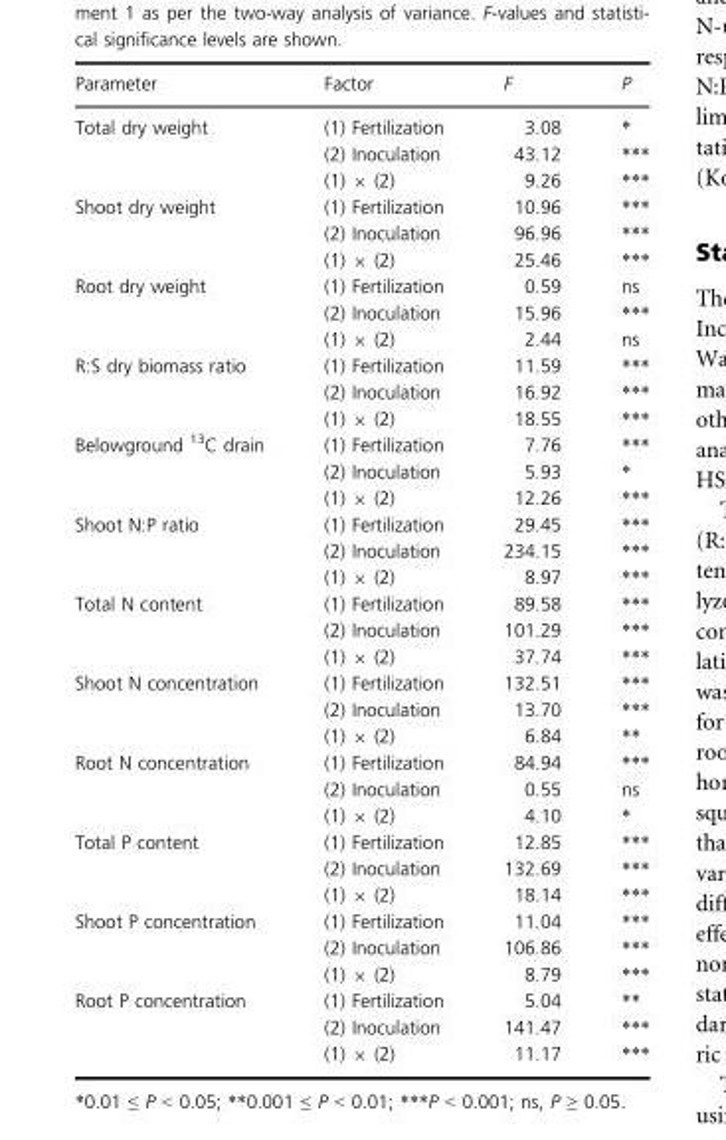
<table><thead><tr><td>Parameter</td><td>Factor</td><td>F</td><td>P</td></tr></thead><tbody><tr><td rowspan="3">Total dry weight</td><td>(1) Fertilization</td><td>3.08</td><td>*</td></tr><tr><td>(2) Inoculation</td><td>43.12</td><td>***</td></tr><tr><td>(1) × (2)</td><td>9.26</td><td>***</td></tr><tr><td rowspan="3">Shoot dry weight</td><td>(1) Fertilization</td><td>10.96</td><td>***</td></tr><tr><td>(2) Inoculation</td><td>96.96</td><td>***</td></tr><tr><td>(1) × (2)</td><td>25.46</td><td>***</td></tr><tr><td rowspan="3">Root dry weight</td><td>(1) Fertilization</td><td>0.59</td><td>ns</td></tr><tr><td>(2) Inoculation</td><td>15.96</td><td>***</td></tr><tr><td>(1) × (2)</td><td>2.44</td><td>ns</td></tr><tr><td rowspan="3">R:S dry biomass ratio</td><td>(1) Fertilization</td><td>11.59</td><td>***</td></tr><tr><td>(2) Inoculation</td><td>16.92</td><td>***</td></tr><tr><td>(1) × (2)</td><td>18.55</td><td>***</td></tr><tr><td rowspan="3">Belowground <sup>13</sup>C drain</td><td>(1) Fertilization</td><td>7.76</td><td>***</td></tr><tr><td>(2) Inoculation</td><td>5.93</td><td>*</td></tr><tr><td>(1) × (2)</td><td>12.26</td><td>***</td></tr><tr><td rowspan="3">Shoot N:P ratio</td><td>(1) Fertilization</td><td>29.45</td><td>***</td></tr><tr><td>(2) Inoculation</td><td>234.15</td><td>***</td></tr><tr><td>(1) × (2)</td><td>8.97</td><td>***</td></tr><tr><td rowspan="3">Total N content</td><td>(1) Fertilization</td><td>89.58</td><td>***</td></tr><tr><td>(2) Inoculation</td><td>101.29</td><td>***</td></tr><tr><td>(1) × (2)</td><td>37.74</td><td>***</td></tr><tr><td rowspan="3">Shoot N concentration</td><td>(1) Fertilization</td><td>132.51</td><td>***</td></tr><tr><td>(2) Inoculation</td><td>13.70</td><td>***</td></tr><tr><td>(1) × (2)</td><td>6.84</td><td>**</td></tr><tr><td rowspan="3">Root N concentration</td><td>(1) Fertilization</td><td>84.94</td><td>***</td></tr><tr><td>(2) Inoculation</td><td>0.55</td><td>ns</td></tr><tr><td>(1) × (2)</td><td>4.10</td><td>*</td></tr><tr><td rowspan="3">Total P content</td><td>(1) Fertilization</td><td>12.85</td><td>***</td></tr><tr><td>(2) Inoculation</td><td>132.69</td><td>***</td></tr><tr><td>(1) × (2)</td><td>18.14</td><td>***</td></tr><tr><td rowspan="3">Shoot P concentration</td><td>(1) Fertilization</td><td>11.04</td><td>***</td></tr><tr><td>(2) Inoculation</td><td>106.86</td><td>***</td></tr><tr><td>(1) × (2)</td><td>8.79</td><td>***</td></tr><tr><td rowspan="3">Root P concentration</td><td>(1) Fertilization</td><td>5.04</td><td>**</td></tr><tr><td>(2) Inoculation</td><td>141.47</td><td>***</td></tr><tr><td>(1) × (2)</td><td>11.17</td><td>***</td></tr></tbody></table>